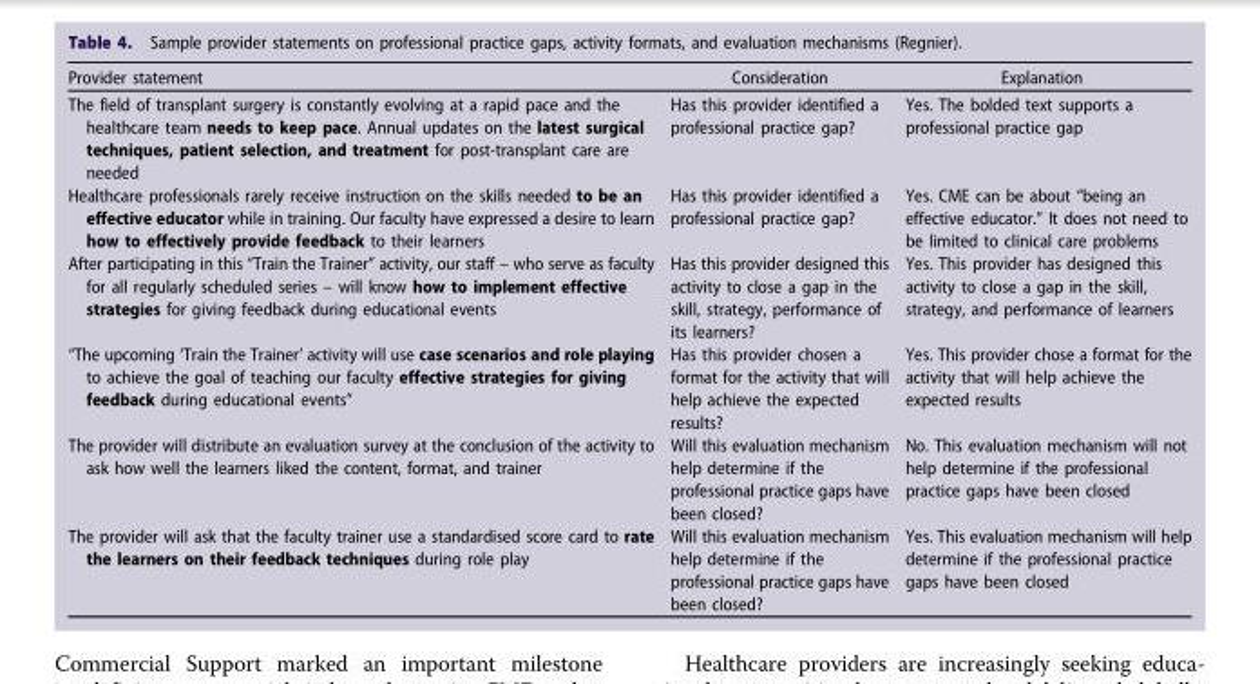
<table><thead><tr><td>Provider statement</td><td>Consideration</td><td>Explanation</td></tr></thead><tbody><tr><td>The field of transplant surgery is constantly evolving at a rapid pace and the healthcare team needs to keep pace. Annual updates on the latest surgical techniques, patient selection, and treatment for post-transplant care are needed</td><td>Has this provider identified a professional practice gap?</td><td>Yes. The bolded text supports a professional practice gap</td></tr><tr><td>Healthcare professionals rarely receive instruction on the skills needed to be an effective educator while in training. Our faculty have expressed a desire to learn how to effectively provide feedback to their learners</td><td>Has this provider identified a professional practice gap?</td><td>Yes. CME can be about “being an effective educator.” It does not need to be limited to clinical care problems</td></tr><tr><td>After participating in this “Train the Trainer” activity, our staff – who serve as faculty for all regularly scheduled series – will know how to implement effective strategies for giving feedback during educational events</td><td>Has this provider designed this activity to close a gap in the skill, strategy, performance of its learners?</td><td>Yes. This provider has designed this activity to close a gap in the skill, strategy, and performance of learners</td></tr><tr><td>“The upcoming ‘Train the Trainer’ activity will use case scenarios and role playing to achieve the goal of teaching our faculty effective strategies for giving feedback during educational events”</td><td>Has this provider chosen a format for the activity that will help achieve the expected results?</td><td>Yes. This provider chose a format for the activity that will help achieve the expected results</td></tr><tr><td>The provider will distribute an evaluation survey at the conclusion of the activity to ask how well the learners liked the content, format, and trainer</td><td>Will this evaluation mechanism help determine if the professional practice gaps have been closed?</td><td>No. This evaluation mechanism will not help determine if the professional practice gaps have been closed</td></tr><tr><td>The provider will ask that the faculty trainer use a standardised score card to rate the learners on their feedback techniques during role play</td><td>Will this evaluation mechanism help determine if the professional practice gaps have been closed?</td><td>Yes. This evaluation mechanism will help determine if the professional practice gaps have been closed</td></tr></tbody></table>